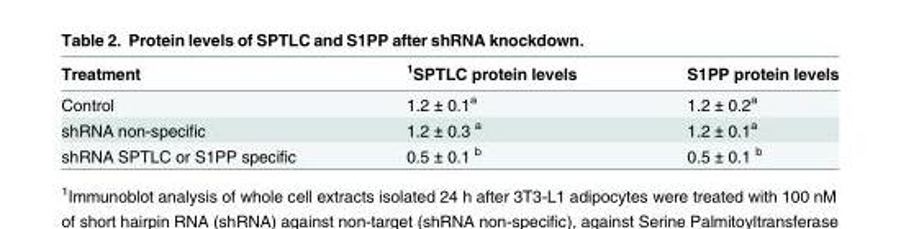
<table><thead><tr><td>Treatment</td><td><sup>1</sup>SPTLC protein levels</td><td>S1PP protein levels</td></tr></thead><tbody><tr><td>Control</td><td>1.2 ± 0.1<sup>a</sup></td><td>1.2 ± 0.2<sup>a</sup></td></tr><tr><td>shRNA non-specific</td><td>1.2 ± 0.3 <sup>a</sup></td><td>1.2 ± 0.1<sup>a</sup></td></tr><tr><td>shRNA SPTLC or S1PP specific</td><td>0.5 ± 0.1 <sup>b</sup></td><td>0.5 ± 0.1 <sup>b</sup></td></tr></tbody></table>